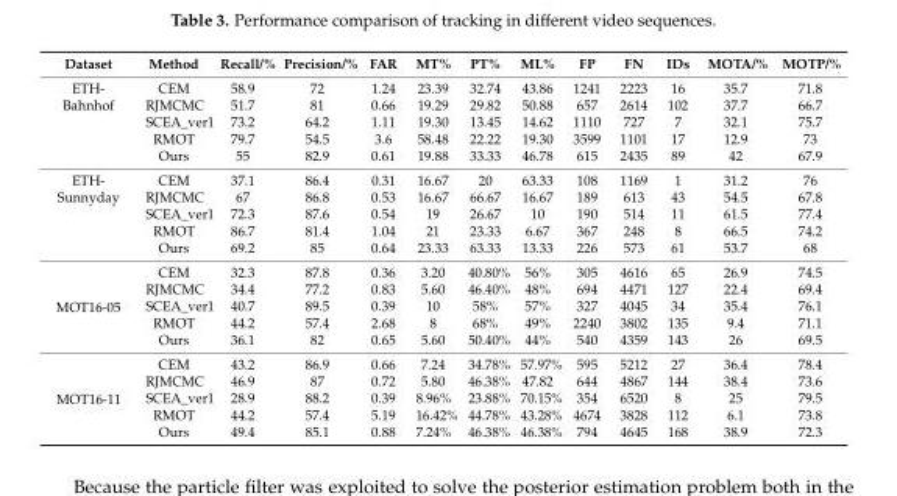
<table><thead><tr><td>Dataset</td><td>Method</td><td>Recall/%</td><td>Precision/%</td><td>FAR</td><td>MT%</td><td>PT%</td><td>ML%</td><td>FP</td><td>FN</td><td>IDs</td><td>MOTA/%</td><td>MOTP/%</td></tr></thead><tbody><tr><td>ETH-</td><td>CEM</td><td>58.9</td><td>72</td><td>1.24</td><td>23.39</td><td>32.74</td><td>43.86</td><td>1241</td><td>2223</td><td>16</td><td>35.7</td><td>71.8</td></tr><tr><td rowspan="4">Bahnhof</td><td>RJMCMC</td><td>51.7</td><td>81</td><td>0.66</td><td>19.29</td><td>29.82</td><td>50.88</td><td>657</td><td>2614</td><td>102</td><td>37.7</td><td>66.7</td></tr><tr><td>SCEA_ver1</td><td>73.2</td><td>64.2</td><td>1.11</td><td>19.30</td><td>13.45</td><td>14.62</td><td>1110</td><td>727</td><td>7</td><td>32.1</td><td>75.7</td></tr><tr><td>RMOT</td><td>79.7</td><td>54.5</td><td>3.6</td><td>58.48</td><td>22.22</td><td>19.30</td><td>3599</td><td>1101</td><td>17</td><td>12.9</td><td>73</td></tr><tr><td>Ours</td><td>55</td><td>82.9</td><td>0.61</td><td>19.88</td><td>33.33</td><td>46.78</td><td>615</td><td>2435</td><td>89</td><td>42</td><td>67.9</td></tr><tr><td>ETH-</td><td>CEM</td><td>37.1</td><td>86.4</td><td>0.31</td><td>16.67</td><td>20</td><td>63.33</td><td>108</td><td>1169</td><td>1</td><td>31.2</td><td>76</td></tr><tr><td rowspan="4">Sunnyday</td><td>RJMCMC</td><td>67</td><td>86.8</td><td>0.53</td><td>16.67</td><td>66.67</td><td>16.67</td><td>189</td><td>613</td><td>43</td><td>54.5</td><td>67.8</td></tr><tr><td>SCEA_ver1</td><td>72.3</td><td>87.6</td><td>0.54</td><td>19</td><td>26.67</td><td>10</td><td>190</td><td>514</td><td>11</td><td>61.5</td><td>77.4</td></tr><tr><td>RMOT</td><td>86.7</td><td>81.4</td><td>1.04</td><td>21</td><td>23.33</td><td>6.67</td><td>367</td><td>248</td><td>8</td><td>66.5</td><td>74.2</td></tr><tr><td>Ours</td><td>69.2</td><td>85</td><td>0.64</td><td>23.33</td><td>63.33</td><td>13.33</td><td>226</td><td>573</td><td>61</td><td>53.7</td><td>68</td></tr><tr><td rowspan="5">MOT16-05</td><td>CEM</td><td>32.3</td><td>87.8</td><td>0.36</td><td>3.20</td><td>40.80%</td><td>56%</td><td>305</td><td>4616</td><td>65</td><td>26.9</td><td>74.5</td></tr><tr><td>RJMCMC</td><td>34.4</td><td>77.2</td><td>0.83</td><td>5.60</td><td>46.40%</td><td>48%</td><td>694</td><td>4471</td><td>127</td><td>22.4</td><td>69.4</td></tr><tr><td>SCEA_ver1</td><td>40.7</td><td>89.5</td><td>0.39</td><td>10</td><td>58%</td><td>57%</td><td>327</td><td>4045</td><td>34</td><td>35.4</td><td>76.1</td></tr><tr><td>RMOT</td><td>44.2</td><td>57.4</td><td>2.68</td><td>8</td><td>68%</td><td>49%</td><td>2240</td><td>3802</td><td>135</td><td>9.4</td><td>71.1</td></tr><tr><td>Ours</td><td>36.1</td><td>82</td><td>0.65</td><td>5.60</td><td>50.40%</td><td>44%</td><td>540</td><td>4359</td><td>143</td><td>26</td><td>69.5</td></tr><tr><td rowspan="5">MOT16-11</td><td>CEM</td><td>43.2</td><td>86.9</td><td>0.66</td><td>7.24</td><td>34.78%</td><td>57.97%</td><td>595</td><td>5212</td><td>27</td><td>36.4</td><td>78.4</td></tr><tr><td>RJMCMC</td><td>46.9</td><td>87</td><td>0.72</td><td>5.80</td><td>46.38%</td><td>47.82</td><td>644</td><td>4867</td><td>144</td><td>38.4</td><td>73.6</td></tr><tr><td>SCEA_ver1</td><td>28.9</td><td>88.2</td><td>0.39</td><td>8.96%</td><td>23.88%</td><td>70.15%</td><td>354</td><td>6520</td><td>8</td><td>25</td><td>79.5</td></tr><tr><td>RMOT</td><td>44.2</td><td>57.4</td><td>5.19</td><td>16.42%</td><td>44.78%</td><td>43.28%</td><td>4674</td><td>3828</td><td>112</td><td>6.1</td><td>73.8</td></tr><tr><td>Ours</td><td>49.4</td><td>85.1</td><td>0.88</td><td>7.24%</td><td>46.38%</td><td>46.38%</td><td>794</td><td>4645</td><td>168</td><td>38.9</td><td>72.3</td></tr></tbody></table>